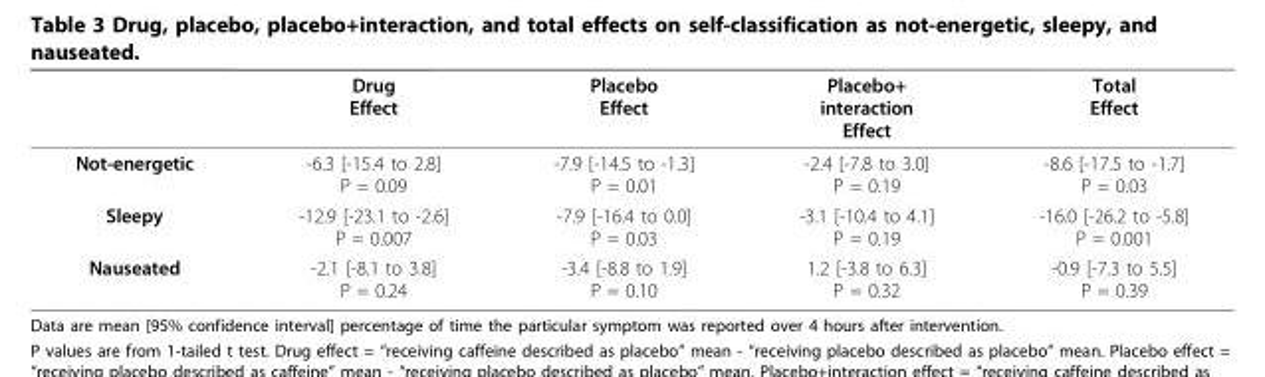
<table><thead><tr><td></td><td>Drug Effect</td><td>Placebo Effect</td><td>Placebo+ interaction Effect</td><td>Total Effect</td></tr></thead><tbody><tr><td>Not-energetic</td><td>-6.3 [-15.4 to 2.8] P = 0.09</td><td>-7.9 [-14.5 to -1.3] P = 0.01</td><td>-2.4 [-7.8 to 3.0] P = 0.19</td><td>-8.6 [-17.5 to -1.7] P = 0.03</td></tr><tr><td>Sleepy</td><td>-12.9 [-23.1 to -2.6] P = 0.007</td><td>-7.9 [-16.4 to 0.0] P = 0.03</td><td>-3.1 [-10.4 to 4.1] P = 0.19</td><td>-16.0 [-26.2 to -5.8] P = 0.001</td></tr><tr><td>Nauseated</td><td>-2.1 [-8.1 to 3.8] P = 0.24</td><td>-3.4 [-8.8 to 1.9] P = 0.10</td><td>1.2 [-3.8 to 6.3] P = 0.32</td><td>-0.9 [-7.3 to 5.5] P = 0.39</td></tr></tbody></table>